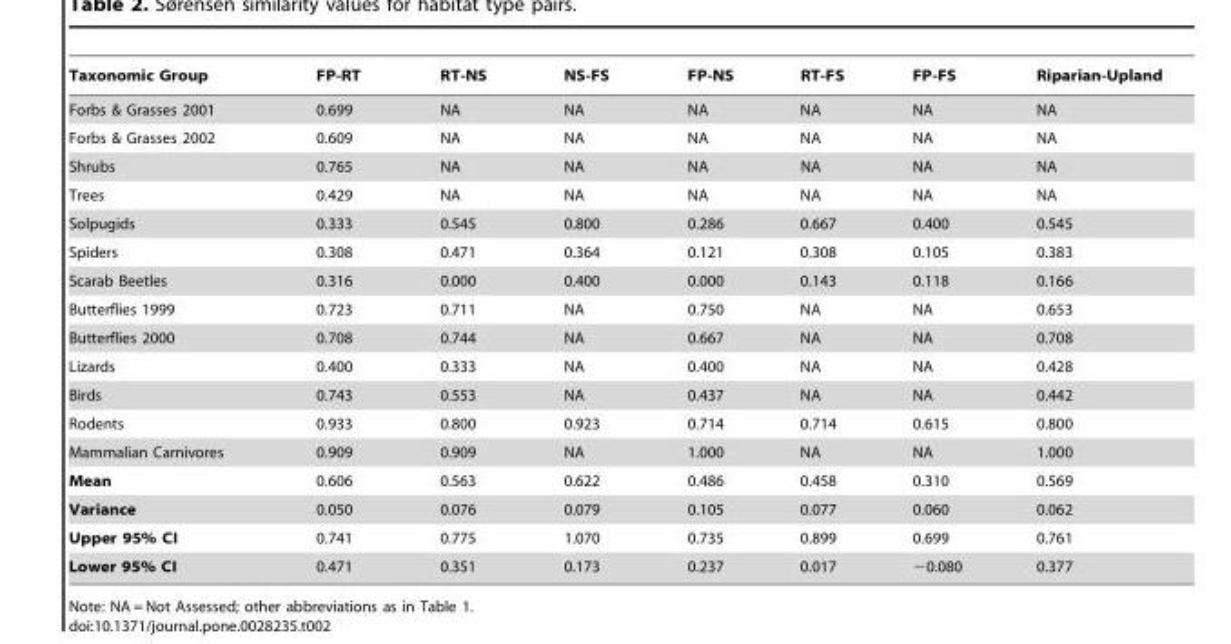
<table><thead><tr><td>Taxonomic Group</td><td>FP-RT</td><td>RT-NS</td><td>NS-FS</td><td>FP-NS</td><td>RT-FS</td><td>FP-FS</td><td>Riparian-Upland</td></tr></thead><tbody><tr><td>Forbs &amp; Grasses 2001</td><td>0.699</td><td>NA</td><td>NA</td><td>NA</td><td>NA</td><td>NA</td><td>NA</td></tr><tr><td>Forbs &amp; Grasses 2002</td><td>0.609</td><td>NA</td><td>NA</td><td>NA</td><td>NA</td><td>NA</td><td>NA</td></tr><tr><td>Shrubs</td><td>0.765</td><td>NA</td><td>NA</td><td>NA</td><td>NA</td><td>NA</td><td>NA</td></tr><tr><td>Trees</td><td>0.429</td><td>NA</td><td>NA</td><td>NA</td><td>NA</td><td>NA</td><td>NA</td></tr><tr><td>Solpugids</td><td>0.333</td><td>0.545</td><td>0.800</td><td>0.286</td><td>0.667</td><td>0.400</td><td>0.545</td></tr><tr><td>Spiders</td><td>0.308</td><td>0.471</td><td>0.364</td><td>0.121</td><td>0.308</td><td>0.105</td><td>0.383</td></tr><tr><td>Scarab Beetles</td><td>0.316</td><td>0.000</td><td>0.400</td><td>0.000</td><td>0.143</td><td>0.118</td><td>0.166</td></tr><tr><td>Butterflies 1999</td><td>0.723</td><td>0.711</td><td>NA</td><td>0.750</td><td>NA</td><td>NA</td><td>0.653</td></tr><tr><td>Butterflies 2000</td><td>0.708</td><td>0.744</td><td>NA</td><td>0.667</td><td>NA</td><td>NA</td><td>0.708</td></tr><tr><td>Lizards</td><td>0.400</td><td>0.333</td><td>NA</td><td>0.400</td><td>NA</td><td>NA</td><td>0.428</td></tr><tr><td>Birds</td><td>0.743</td><td>0.553</td><td>NA</td><td>0.437</td><td>NA</td><td>NA</td><td>0.442</td></tr><tr><td>Rodents</td><td>0.933</td><td>0.800</td><td>0.923</td><td>0.714</td><td>0.714</td><td>0.615</td><td>0.800</td></tr><tr><td>Mammalian Carnivores</td><td>0.909</td><td>0.909</td><td>NA</td><td>1.000</td><td>NA</td><td>NA</td><td>1.000</td></tr><tr><td>Mean</td><td>0.606</td><td>0.563</td><td>0.622</td><td>0.486</td><td>0.458</td><td>0.310</td><td>0.569</td></tr><tr><td>Variance</td><td>0.050</td><td>0.076</td><td>0.079</td><td>0.105</td><td>0.077</td><td>0.060</td><td>0.062</td></tr><tr><td>Upper 95% CI</td><td>0.741</td><td>0.775</td><td>1.070</td><td>0.735</td><td>0.899</td><td>0.699</td><td>0.761</td></tr><tr><td>Lower 95% CI</td><td>0.471</td><td>0.351</td><td>0.173</td><td>0.237</td><td>0.017</td><td>−0.080</td><td>0.377</td></tr></tbody></table>